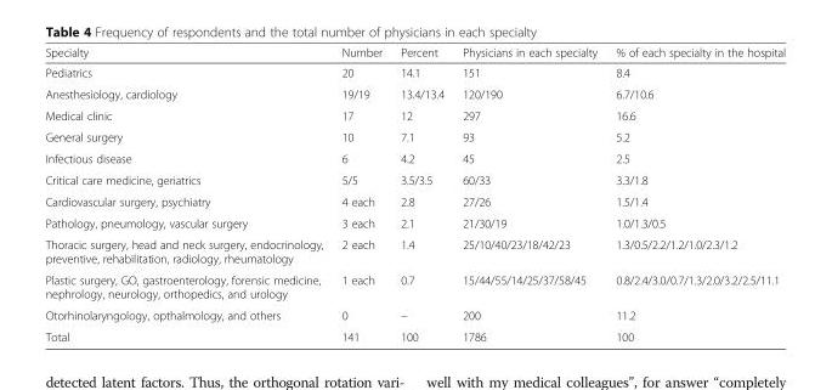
<table><thead><tr><td>Specialty</td><td>Number</td><td>Percent</td><td>Physicians in each specialty</td><td>% of each specialty in the hospital</td></tr></thead><tbody><tr><td>Pediatrics</td><td>20</td><td>14.1</td><td>151</td><td>8.4</td></tr><tr><td>Anesthesiology, cardiology</td><td>19/19</td><td>13.4/13.4</td><td>120/190</td><td>6.7/10.6</td></tr><tr><td>Medical clinic</td><td>17</td><td>12</td><td>297</td><td>16.6</td></tr><tr><td>General surgery</td><td>10</td><td>7.1</td><td>93</td><td>5.2</td></tr><tr><td>Infectious disease</td><td>6</td><td>4.2</td><td>45</td><td>2.5</td></tr><tr><td>Critical care medicine, geriatrics</td><td>5/5</td><td>3.5/3.5</td><td>60/33</td><td>3.3/1.8</td></tr><tr><td>Cardiovascular surgery, psychiatry</td><td>4 each</td><td>2.8</td><td>27/26</td><td>1.5/1.4</td></tr><tr><td>Pathology, pneumology, vascular surgery</td><td>3 each</td><td>2.1</td><td>21/30/19</td><td>1.0/1.3/0.5</td></tr><tr><td>Thoracic surgery, head and neck surgery, endocrinology, preventive, rehabilitation, radiology, rheumatology</td><td>2 each</td><td>1.4</td><td>25/10/40/23/18/42/23</td><td>1.3/0.5/2.2/1.2/1.0/2.3/1.2</td></tr><tr><td>Plastic surgery, GO, gastroenterology, forensic medicine, nephrology, neurology, orthopedics, and urology</td><td>1 each</td><td>0.7</td><td>15/44/55/14/25/37/58/45</td><td>0.8/2.4/3.0/0.7/1.3/2.0/3.2/2.5/11.1</td></tr><tr><td>Otorhinolaryngology, opthalmology, and others</td><td>0</td><td>–</td><td>200</td><td>11.2</td></tr><tr><td>Total</td><td>141</td><td>100</td><td>1786</td><td>100</td></tr></tbody></table>